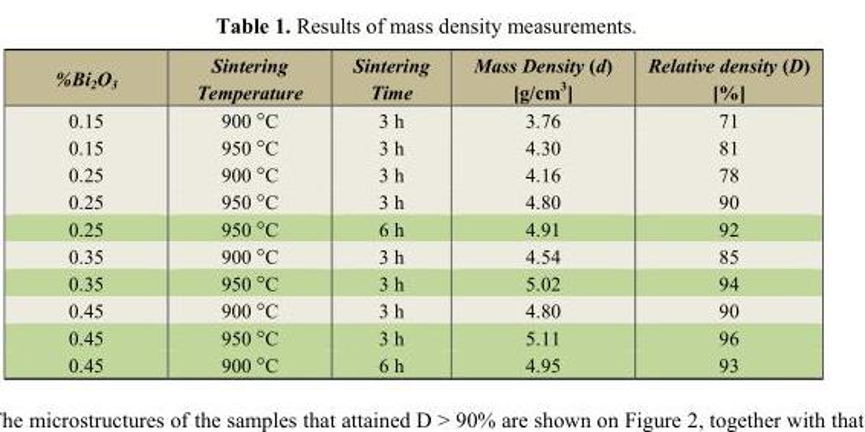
<table><thead><tr><td>%Bi<sub>2</sub>O<sub>3</sub></td><td>Sintering Temperature</td><td>Sintering Time</td><td>Mass Density (d) [g/cm<sup>3</sup>]</td><td>Relative density (D) [%]</td></tr></thead><tbody><tr><td>0.15</td><td>900 °C</td><td>3 h</td><td>3.76</td><td>71</td></tr><tr><td>0.15</td><td>950 °C</td><td>3 h</td><td>4.30</td><td>81</td></tr><tr><td>0.25</td><td>900 °C</td><td>3 h</td><td>4.16</td><td>78</td></tr><tr><td>0.25</td><td>950 °C</td><td>3 h</td><td>4.80</td><td>90</td></tr><tr><td>0.25</td><td>950 °C</td><td>6 h</td><td>4.91</td><td>92</td></tr><tr><td>0.35</td><td>900 °C</td><td>3 h</td><td>4.54</td><td>85</td></tr><tr><td>0.35</td><td>950 °C</td><td>3 h</td><td>5.02</td><td>94</td></tr><tr><td>0.45</td><td>900 °C</td><td>3 h</td><td>4.80</td><td>90</td></tr><tr><td>0.45</td><td>950 °C</td><td>3 h</td><td>5.11</td><td>96</td></tr><tr><td>0.45</td><td>900 °C</td><td>6 h</td><td>4.95</td><td>93</td></tr></tbody></table>